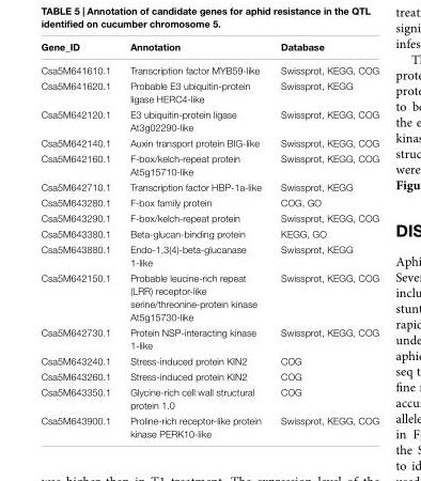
<table><thead><tr><td>Gene_ID</td><td>Annotation</td><td>Database</td></tr></thead><tbody><tr><td>Csa5M641610.1</td><td>Transcription factor MYB59-like</td><td>Swissprot, KEGG, COG</td></tr><tr><td>Csa5M641620.1</td><td>Probable E3 ubiquitin-protein ligase HERC4-like</td><td>Swissprot, KEGG</td></tr><tr><td>Csa5M642120.1</td><td>E3 ubiquitin-protein ligase At3g02290-like</td><td>Swissprot, KEGG, COG</td></tr><tr><td>Csa5M642140.1</td><td>Auxin transport protein BIG-like</td><td>Swissprot, KEGG, COG</td></tr><tr><td>Csa5M642160.1</td><td>F-box/kelch-repeat protein At5g15710-like</td><td>Swissprot, KEGG, COG</td></tr><tr><td>Csa5M642710.1</td><td>Transcription factor HBP-1a-like</td><td>Swissprot, KEGG</td></tr><tr><td>Csa5M643280.1</td><td>F-box family protein</td><td>COG, GO</td></tr><tr><td>Csa5M643290.1</td><td>F-box/kelch-repeat protein</td><td>Swissprot, KEGG, COG</td></tr><tr><td>Csa5M643380.1</td><td>Beta-glucan-binding protein</td><td>KEGG, GO</td></tr><tr><td>Csa5M643880.1</td><td>Endo-1,3(4)-beta-glucanase 1-like</td><td>Swissprot, KEGG</td></tr><tr><td>Csa5M642150.1</td><td>Probable leucine-rich repeat (LRR) receptor-like serine/threonine-protein kinase At5g15730-like</td><td>Swissprot, KEGG, COG</td></tr><tr><td>Csa5M642730.1</td><td>Protein NSP-interacting kinase 1-like</td><td>Swissprot, KEGG, COG</td></tr><tr><td>Csa5M643240.1</td><td>Stress-induced protein KIN2</td><td>COG</td></tr><tr><td>Csa5M643260.1</td><td>Stress-induced protein KIN2</td><td>COG</td></tr><tr><td>Csa5M643350.1</td><td>Glycine-rich cell wall structural protein 1.0</td><td>COG</td></tr><tr><td>Csa5M643900.1</td><td>Proline-rich receptor-like protein kinase PERK10-like</td><td>Swissprot, KEGG, COG</td></tr></tbody></table>